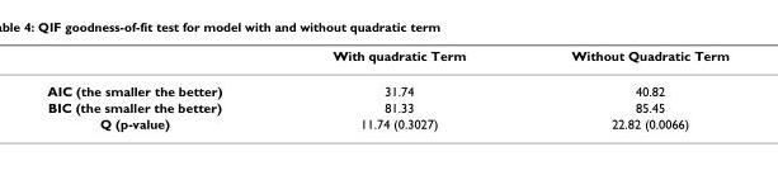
<table><thead><tr><td></td><td>With quadratic Term</td><td>Without Quadratic Term</td></tr></thead><tbody><tr><td>AIC (the smaller the better)</td><td>31.74</td><td>40.82</td></tr><tr><td>BIC (the smaller the better)</td><td>81.33</td><td>85.45</td></tr><tr><td>Q (p-value)</td><td>11.74 (0.3027)</td><td>22.82 (0.0066)</td></tr></tbody></table>